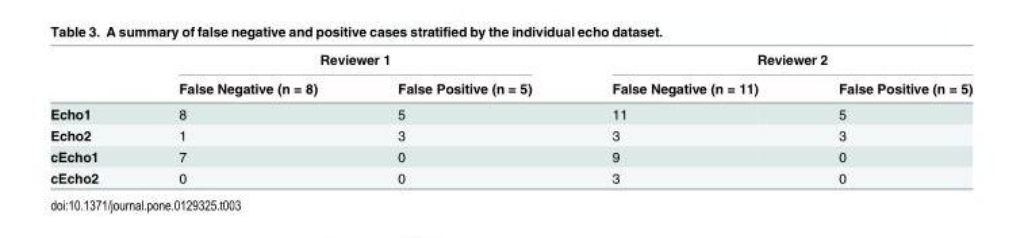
<table><thead><tr><td rowspan="2"></td><td colspan="2">Reviewer 1</td><td colspan="2">Reviewer 2</td></tr><tr><td>False Negative (n = 8)</td><td>False Positive (n = 5)</td><td>False Negative (n = 11)</td><td>False Positive (n = 5)</td></tr></thead><tbody><tr><td>Echo1</td><td>8</td><td>5</td><td>11</td><td>5</td></tr><tr><td>Echo2</td><td>1</td><td>3</td><td>3</td><td>3</td></tr><tr><td>cEcho1</td><td>7</td><td>0</td><td>9</td><td>0</td></tr><tr><td>cEcho2</td><td>0</td><td>0</td><td>3</td><td>0</td></tr></tbody></table>